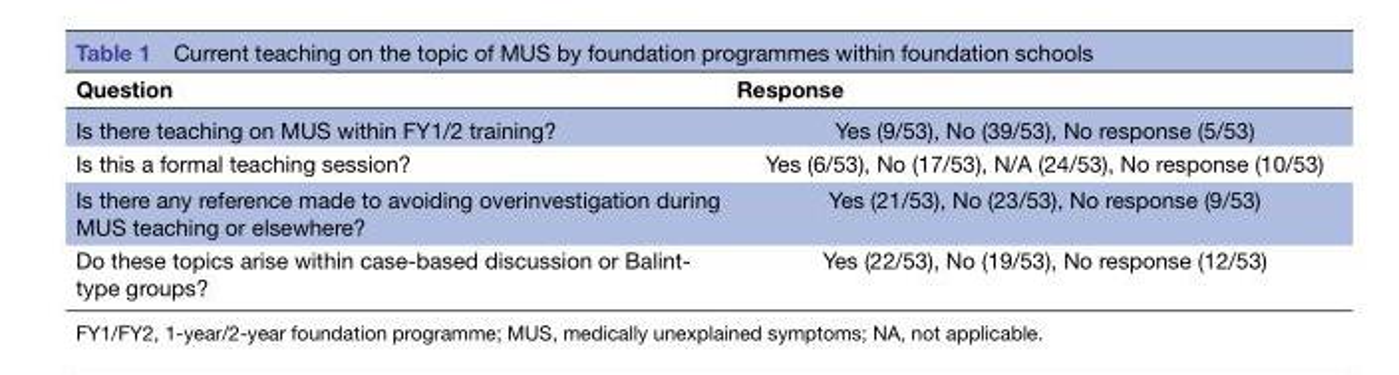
<table><thead><tr><td>Question</td><td>Response</td></tr></thead><tbody><tr><td>Is there teaching on MUS within FY1/2 training?</td><td>Yes (9/53), No (39/53), No response (5/53)</td></tr><tr><td>Is this a formal teaching session?</td><td>Yes (6/53), No (17/53), N/A (24/53), No response (10/53)</td></tr><tr><td>Is there any reference made to avoiding overinvestigation during MUS teaching or elsewhere?</td><td>Yes (21/53), No (23/53), No response (9/53)</td></tr><tr><td>Do these topics arise within case-based discussion or Balint- type groups?</td><td>Yes (22/53), No (19/53), No response (12/53)</td></tr></tbody></table>